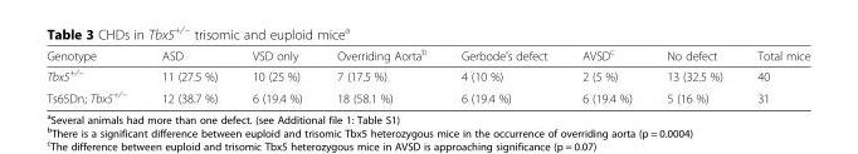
<table><thead><tr><td>Genotype</td><td>ASD</td><td>VSD only</td><td>Overriding Aorta<sup>b</sup></td><td>Gerbode’s defect</td><td>AVSD<sup>c</sup></td><td>No defect</td><td>Total mice</td></tr></thead><tbody><tr><td>Tbx5<sup>+/−</sup></td><td>11 (27.5 %)</td><td>10 (25 %)</td><td>7 (17.5 %)</td><td>4 (10 %)</td><td>2 (5 %)</td><td>13 (32.5 %)</td><td>40</td></tr><tr><td>Ts65Dn; Tbx5<sup>+/−</sup></td><td>12 (38.7 %)</td><td>6 (19.4 %)</td><td>18 (58.1 %)</td><td>6 (19.4 %)</td><td>6 (19.4 %)</td><td>5 (16 %)</td><td>31</td></tr></tbody></table>